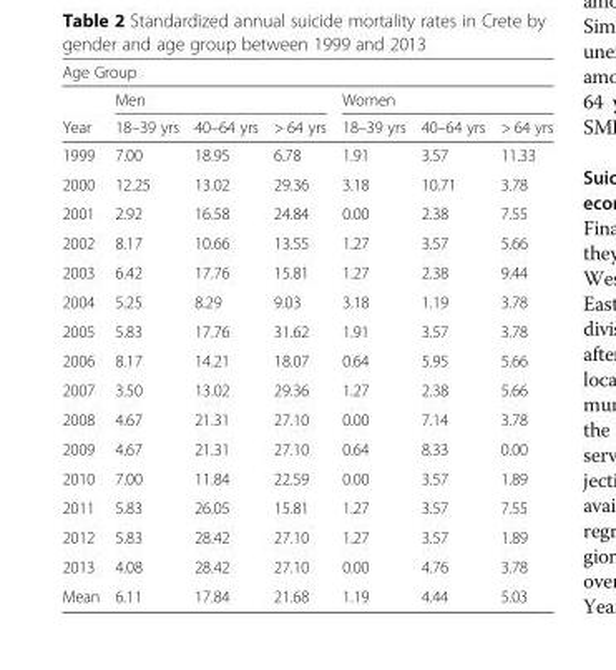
<table><thead><tr><td colspan="7">Age Group</td></tr><tr><td rowspan="2">Year</td><td colspan="3">Men</td><td colspan="3">Women</td></tr><tr><td>18–39 yrs</td><td>40–64 yrs</td><td>&gt; 64 yrs</td><td>18–39 yrs</td><td>40–64 yrs</td><td>&gt; 64 yrs</td></tr></thead><tbody><tr><td>1999</td><td>7.00</td><td>18.95</td><td>6.78</td><td>1.91</td><td>3.57</td><td>11.33</td></tr><tr><td>2000</td><td>12.25</td><td>13.02</td><td>29.36</td><td>3.18</td><td>10.71</td><td>3.78</td></tr><tr><td>2001</td><td>2.92</td><td>16.58</td><td>24.84</td><td>0.00</td><td>2.38</td><td>7.55</td></tr><tr><td>2002</td><td>8.17</td><td>10.66</td><td>13.55</td><td>1.27</td><td>3.57</td><td>5.66</td></tr><tr><td>2003</td><td>6.42</td><td>17.76</td><td>15.81</td><td>1.27</td><td>2.38</td><td>9.44</td></tr><tr><td>2004</td><td>5.25</td><td>8.29</td><td>9.03</td><td>3.18</td><td>1.19</td><td>3.78</td></tr><tr><td>2005</td><td>5.83</td><td>17.76</td><td>31.62</td><td>1.91</td><td>3.57</td><td>3.78</td></tr><tr><td>2006</td><td>8.17</td><td>14.21</td><td>18.07</td><td>0.64</td><td>5.95</td><td>5.66</td></tr><tr><td>2007</td><td>3.50</td><td>13.02</td><td>29.36</td><td>1.27</td><td>2.38</td><td>5.66</td></tr><tr><td>2008</td><td>4.67</td><td>21.31</td><td>27.10</td><td>0.00</td><td>7.14</td><td>3.78</td></tr><tr><td>2009</td><td>4.67</td><td>21.31</td><td>27.10</td><td>0.64</td><td>8.33</td><td>0.00</td></tr><tr><td>2010</td><td>7.00</td><td>11.84</td><td>22.59</td><td>0.00</td><td>3.57</td><td>1.89</td></tr><tr><td>2011</td><td>5.83</td><td>26.05</td><td>15.81</td><td>1.27</td><td>3.57</td><td>7.55</td></tr><tr><td>2012</td><td>5.83</td><td>28.42</td><td>27.10</td><td>1.27</td><td>3.57</td><td>1.89</td></tr><tr><td>2013</td><td>4.08</td><td>28.42</td><td>27.10</td><td>0.00</td><td>4.76</td><td>3.78</td></tr><tr><td>Mean</td><td>6.11</td><td>17.84</td><td>21.68</td><td>1.19</td><td>4.44</td><td>5.03</td></tr></tbody></table>